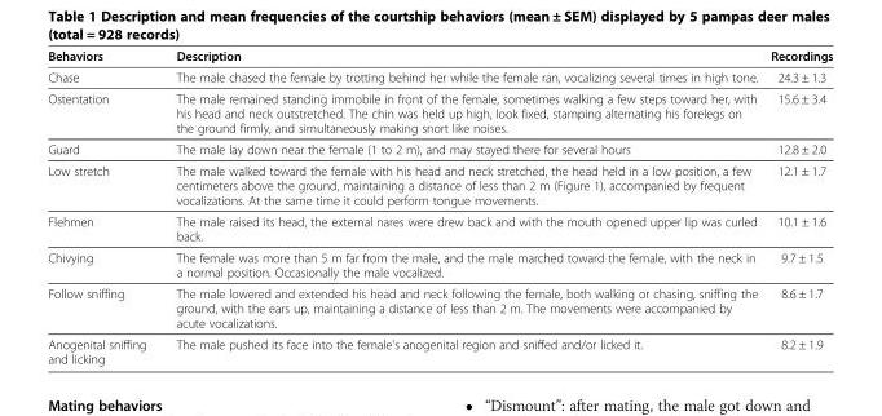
<table><thead><tr><td>Behaviors</td><td>Description</td><td>Recordings</td></tr></thead><tbody><tr><td>Chase</td><td>The male chased the female by trotting behind her while the female ran, vocalizing several times in high tone.</td><td>24.3 ± 1.3</td></tr><tr><td>Ostentation</td><td>The male remained standing immobile in front of the female, sometimes walking a few steps toward her, with his head and neck outstretched. The chin was held up high, look fixed, stamping alternating his forelegs on the ground firmly, and simultaneously making snort like noises.</td><td>15.6 ± 3.4</td></tr><tr><td>Guard</td><td>The male lay down near the female (1 to 2 m), and may stayed there for several hours</td><td>12.8 ± 2.0</td></tr><tr><td>Low stretch</td><td>The male walked toward the female with his head and neck stretched, the head held in a low position, a few centimeters above the ground, maintaining a distance of less than 2 m (Figure 1), accompanied by frequent vocalizations. At the same time it could perform tongue movements.</td><td>12.1 ± 1.7</td></tr><tr><td>Flehmen</td><td>The male raised its head, the external nares were drew back and with the mouth opened upper lip was curled back.</td><td>10.1 ± 1.6</td></tr><tr><td>Chivying</td><td>The female was more than 5 m far from the male, and the male marched toward the female, with the neck in a normal position. Occasionally the male vocalized.</td><td>9.7 ± 1.5</td></tr><tr><td>Follow sniffing</td><td>The male lowered and extended his head and neck following the female, both walking or chasing, sniffing the ground, with the ears up, maintaining a distance of less than 2 m. The movements were accompanied by acute vocalizations.</td><td>8.6 ± 1.7</td></tr><tr><td>Anogenital sniffing and licking</td><td>The male pushed its face into the female&#x27;s anogenital region and sniffed and/or licked it.</td><td>8.2 ± 1.9</td></tr></tbody></table>